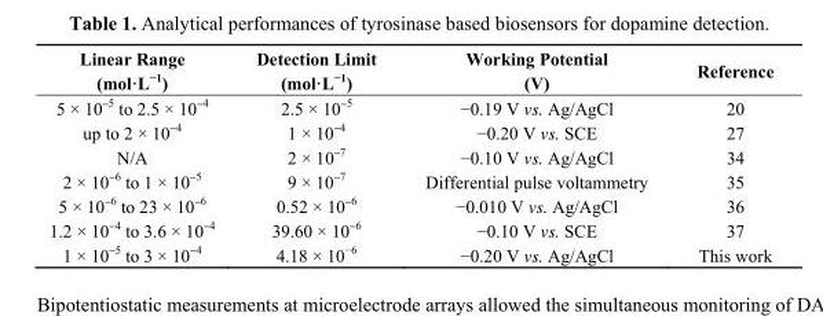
<table><thead><tr><td>Linear Range (mol·L<sup>−1</sup>)</td><td>Detection Limit (mol·L<sup>−1</sup>)</td><td>Working Potential (V)</td><td>Reference</td></tr></thead><tbody><tr><td>5 × 10<sup>−5</sup> to 2.5 × 10<sup>−4</sup></td><td>2.5 × 10<sup>−5</sup></td><td>−0.19 V vs. Ag/AgCl</td><td>20</td></tr><tr><td>up to 2 × 10<sup>−4</sup></td><td>1 × 10<sup>−4</sup></td><td>−0.20 V vs. SCE</td><td>27</td></tr><tr><td>N/A</td><td>2 × 10<sup>−7</sup></td><td>−0.10 V vs. Ag/AgCl</td><td>34</td></tr><tr><td>2 × 10<sup>−6</sup> to 1 × 10<sup>−5</sup></td><td>9 × 10<sup>−7</sup></td><td>Differential pulse voltammetry</td><td>35</td></tr><tr><td>5 × 10<sup>−6</sup> to 23 × 10<sup>−6</sup></td><td>0.52 × 10<sup>−6</sup></td><td>−0.010 V vs. Ag/AgCl</td><td>36</td></tr><tr><td>1.2 × 10<sup>−4</sup> to 3.6 × 10<sup>−4</sup></td><td>39.60 × 10<sup>−6</sup></td><td>−0.10 V vs. SCE</td><td>37</td></tr><tr><td>1 × 10<sup>−5</sup> to 3 × 10<sup>−4</sup></td><td>4.18 × 10<sup>−6</sup></td><td>−0.20 V vs. Ag/AgCl</td><td>This work</td></tr></tbody></table>